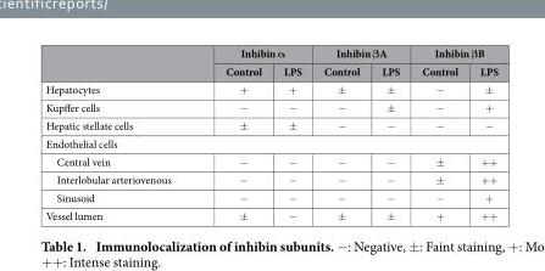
<table><thead><tr><td rowspan="2"></td><td colspan="2">Inhibin α</td><td colspan="2">Inhibin βA</td><td colspan="2">Inhibin βB</td></tr><tr><td>Control</td><td>LPS</td><td>Control</td><td>LPS</td><td>Control</td><td>LPS</td></tr></thead><tbody><tr><td>Hepatocytes</td><td>+</td><td>+</td><td>±</td><td>±</td><td>−</td><td>±</td></tr><tr><td>Kupffer cells</td><td>−</td><td>−</td><td>−</td><td>±</td><td>−</td><td>+</td></tr><tr><td>Hepatic stellate cells</td><td>±</td><td>±</td><td>−</td><td>−</td><td>−</td><td>−</td></tr><tr><td colspan="7">Endothelial cells</td></tr><tr><td>Central vein</td><td>−</td><td>−</td><td>−</td><td>−</td><td>±</td><td>+ +</td></tr><tr><td>Interlobular arteriovenous</td><td>−</td><td>−</td><td>−</td><td>−</td><td>±</td><td>+ +</td></tr><tr><td>Sinusoid</td><td>−</td><td>−</td><td>−</td><td>−</td><td>−</td><td>+</td></tr><tr><td>Vessel lumen</td><td>±</td><td>−</td><td>±</td><td>±</td><td>+</td><td>+ +</td></tr></tbody></table>